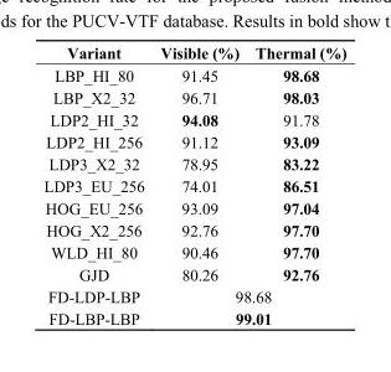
<table><thead><tr><td>Variant</td><td>Visible (%)</td><td>Thermal (%)</td></tr></thead><tbody><tr><td>LBP_HI_80</td><td>91.45</td><td>98.68</td></tr><tr><td>LBP_X2_32</td><td>96.71</td><td>98.03</td></tr><tr><td>LDP2_HI_32</td><td>94.08</td><td>91.78</td></tr><tr><td>LDP2_HI_256</td><td>91.12</td><td>93.09</td></tr><tr><td>LDP3_X2_32</td><td>78.95</td><td>83.22</td></tr><tr><td>LDP3_EU_256</td><td>74.01</td><td>86.51</td></tr><tr><td>HOG_EU_256</td><td>93.09</td><td>97.04</td></tr><tr><td>HOG_X2_256</td><td>92.76</td><td>97.70</td></tr><tr><td>WLD_HI_80</td><td>90.46</td><td>97.70</td></tr><tr><td>GJD</td><td>80.26</td><td>92.76</td></tr><tr><td>FD-LDP-LBP</td><td colspan="2">98.68</td></tr><tr><td>FD-LBP-LBP</td><td colspan="2">99.01</td></tr></tbody></table>